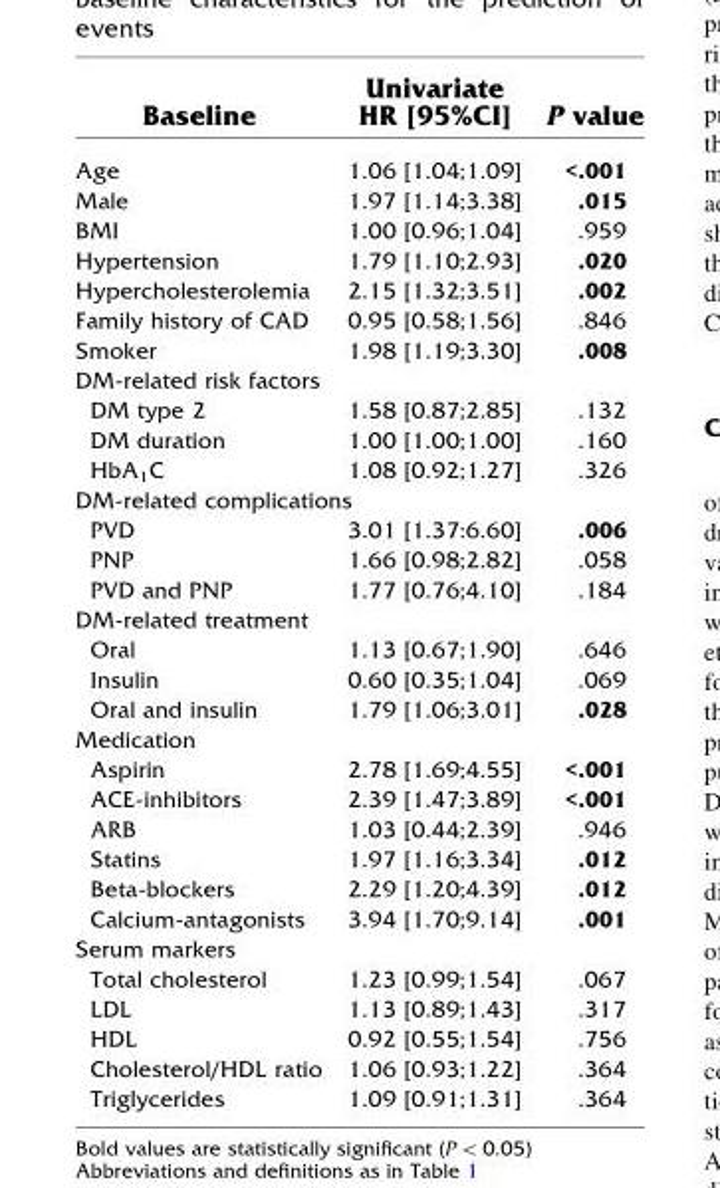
<table><thead><tr><td>Baseline</td><td>Univariate HR [95%CI]</td><td>P value</td></tr></thead><tbody><tr><td>Age</td><td>1.06 [1.04;1.09]</td><td>&lt;.001</td></tr><tr><td>Male</td><td>1.97 [1.14;3.38]</td><td>.015</td></tr><tr><td>BMI</td><td>1.00 [0.96;1.04]</td><td>.959</td></tr><tr><td>Hypertension</td><td>1.79 [1.10;2.93]</td><td>.020</td></tr><tr><td>Hypercholesterolemia</td><td>2.15 [1.32;3.51]</td><td>.002</td></tr><tr><td>Family history of CAD</td><td>0.95 [0.58;1.56]</td><td>.846</td></tr><tr><td>Smoker</td><td>1.98 [1.19;3.30]</td><td>.008</td></tr><tr><td colspan="3">DM-related risk factors</td></tr><tr><td>DM type 2</td><td>1.58 [0.87;2.85]</td><td>.132</td></tr><tr><td>DM duration</td><td>1.00 [1.00;1.00]</td><td>.160</td></tr><tr><td>HbA<sub>1</sub>C</td><td>1.08 [0.92;1.27]</td><td>.326</td></tr><tr><td colspan="3">DM-related complications</td></tr><tr><td>PVD</td><td>3.01 [1.37:6.60]</td><td>.006</td></tr><tr><td>PNP</td><td>1.66 [0.98;2.82]</td><td>.058</td></tr><tr><td>PVD and PNP</td><td>1.77 [0.76;4.10]</td><td>.184</td></tr><tr><td colspan="3">DM-related treatment</td></tr><tr><td>Oral</td><td>1.13 [0.67;1.90]</td><td>.646</td></tr><tr><td>Insulin</td><td>0.60 [0.35;1.04]</td><td>.069</td></tr><tr><td>Oral and insulin</td><td>1.79 [1.06;3.01]</td><td>.028</td></tr><tr><td colspan="3">Medication</td></tr><tr><td>Aspirin</td><td>2.78 [1.69;4.55]</td><td>&lt;.001</td></tr><tr><td>ACE-inhibitors</td><td>2.39 [1.47;3.89]</td><td>&lt;.001</td></tr><tr><td>ARB</td><td>1.03 [0.44;2.39]</td><td>.946</td></tr><tr><td>Statins</td><td>1.97 [1.16;3.34]</td><td>.012</td></tr><tr><td>Beta-blockers</td><td>2.29 [1.20;4.39]</td><td>.012</td></tr><tr><td>Calcium-antagonists</td><td>3.94 [1.70;9.14]</td><td>.001</td></tr><tr><td colspan="3">Serum markers</td></tr><tr><td>Total cholesterol</td><td>1.23 [0.99;1.54]</td><td>.067</td></tr><tr><td>LDL</td><td>1.13 [0.89;1.43]</td><td>.317</td></tr><tr><td>HDL</td><td>0.92 [0.55;1.54]</td><td>.756</td></tr><tr><td>Cholesterol/HDL ratio</td><td>1.06 [0.93;1.22]</td><td>.364</td></tr><tr><td>Triglycerides</td><td>1.09 [0.91;1.31]</td><td>.364</td></tr></tbody></table>